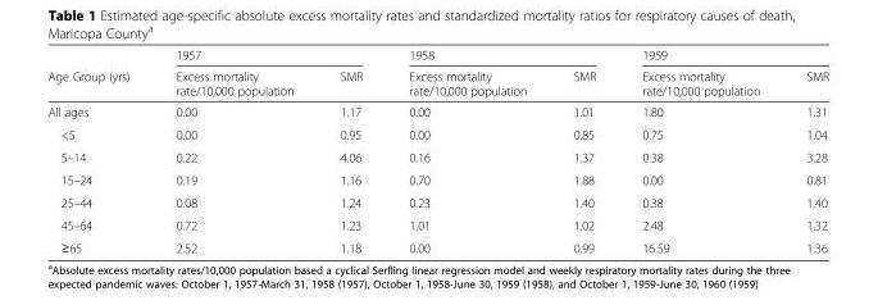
<table><thead><tr><td rowspan="2">Age Group (yrs)</td><td colspan="2">1957</td><td colspan="2">1958</td><td colspan="2">1959</td></tr><tr><td>Excess mortality rate/10,000 population</td><td>SMR</td><td>Excess mortality rate/10,000 population</td><td>SMR</td><td>Excess mortality rate/10,000 population</td><td>SMR</td></tr></thead><tbody><tr><td>All ages</td><td>0.00</td><td>1.17</td><td>0.00</td><td>1.01</td><td>1.80</td><td>1.31</td></tr><tr><td>&lt;5</td><td>0.00</td><td>0.95</td><td>0.00</td><td>0.85</td><td>0.75</td><td>1.04</td></tr><tr><td>5–14</td><td>0.22</td><td>4.06</td><td>0.16</td><td>1.37</td><td>0.38</td><td>3.28</td></tr><tr><td>15–24</td><td>0.19</td><td>1.16</td><td>0.70</td><td>1.88</td><td>0.00</td><td>0.81</td></tr><tr><td>25–44</td><td>0.08</td><td>1.24</td><td>0.23</td><td>1.40</td><td>0.38</td><td>1.40</td></tr><tr><td>45–64</td><td>0.72</td><td>1.23</td><td>1.01</td><td>1.02</td><td>2.48</td><td>1.32</td></tr><tr><td>≥65</td><td>2.52</td><td>1.18</td><td>0.00</td><td>0.99</td><td>16.59</td><td>1.36</td></tr></tbody></table>